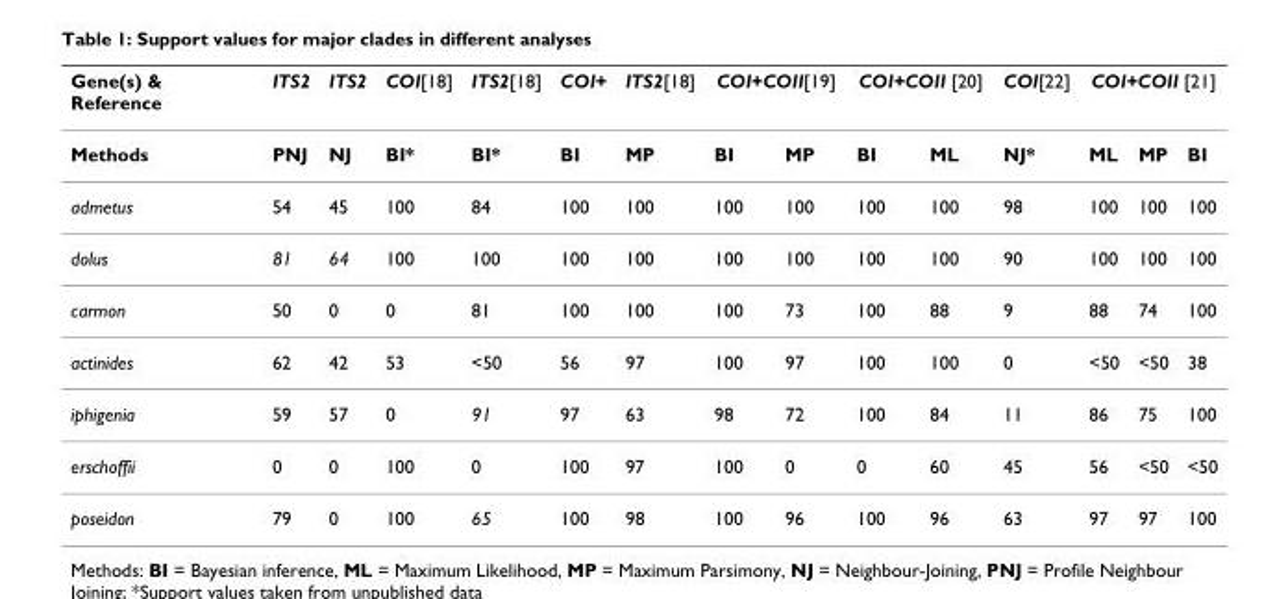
<table><thead><tr><td rowspan="2">Gene(s) &amp; Reference Methods</td><td rowspan="2">ITS2 PNJ</td><td rowspan="2">ITS2 NJ</td><td rowspan="2">COI[18] BI*</td><td rowspan="2">ITS2[18] BI*</td><td rowspan="2">COI+ BI</td><td rowspan="2">ITS2[18] MP</td><td colspan="2">COI+COII[19]</td><td colspan="2">COI+COII [20]</td><td rowspan="2">COI[22] NJ*</td><td colspan="3">COI+COII [21]</td></tr><tr><td>BI</td><td>MP</td><td>BI</td><td>ML</td><td>ML</td><td>MP</td><td>BI</td></tr></thead><tbody><tr><td>admetus</td><td>54</td><td>45</td><td>100</td><td>84</td><td>100</td><td>100</td><td>100</td><td>100</td><td>100</td><td>100</td><td>98</td><td>100</td><td>100</td><td>100</td></tr><tr><td>dolus</td><td>81</td><td>64</td><td>100</td><td>100</td><td>100</td><td>100</td><td>100</td><td>100</td><td>100</td><td>100</td><td>90</td><td>100</td><td>100</td><td>100</td></tr><tr><td>carmon</td><td>50</td><td>0</td><td>0</td><td>81</td><td>100</td><td>100</td><td>100</td><td>73</td><td>100</td><td>88</td><td>9</td><td>88</td><td>74</td><td>100</td></tr><tr><td>actinides</td><td>62</td><td>42</td><td>53</td><td>&lt;50</td><td>56</td><td>97</td><td>100</td><td>97</td><td>100</td><td>100</td><td>0</td><td>&lt;50</td><td>&lt;50</td><td>38</td></tr><tr><td>iphigenia</td><td>59</td><td>57</td><td>0</td><td>91</td><td>97</td><td>63</td><td>98</td><td>72</td><td>100</td><td>84</td><td>11</td><td>86</td><td>75</td><td>100</td></tr><tr><td>erschoffii</td><td>0</td><td>0</td><td>100</td><td>0</td><td>100</td><td>97</td><td>100</td><td>0</td><td>0</td><td>60</td><td>45</td><td>56</td><td>&lt;50</td><td>&lt;50</td></tr><tr><td>poseidon</td><td>79</td><td>0</td><td>100</td><td>65</td><td>100</td><td>98</td><td>100</td><td>96</td><td>100</td><td>96</td><td>63</td><td>97</td><td>97</td><td>100</td></tr></tbody></table>